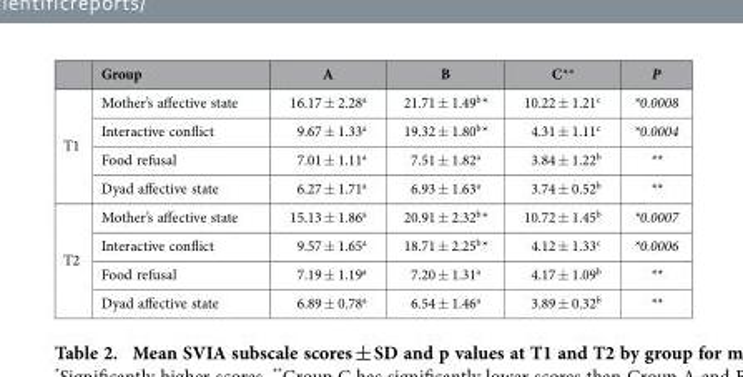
<table><thead><tr><td></td><td>Group</td><td>A</td><td>B</td><td>C**</td><td>P</td></tr></thead><tbody><tr><td rowspan="4">T1</td><td>Mother’s affective state</td><td>16.17 ± 2.28<sup>a</sup></td><td>21.71 ± 1.49<sup>b</sup>*</td><td>10.22 ± 1.21<sup>c</sup></td><td>*0.0008</td></tr><tr><td>Interactive conflict</td><td>9.67 ± 1.33<sup>a</sup></td><td>19.32 ± 1.80<sup>b</sup>*</td><td>4.31 ± 1.11<sup>c</sup></td><td>*0.0004</td></tr><tr><td>Food refusal</td><td>7.01 ± 1.11<sup>a</sup></td><td>7.51 ± 1.82<sup>a</sup></td><td>3.84 ± 1.22<sup>b</sup></td><td>**</td></tr><tr><td>Dyad affective state</td><td>6.27 ± 1.71<sup>a</sup></td><td>6.93 ± 1.63<sup>a</sup></td><td>3.74 ± 0.52<sup>b</sup></td><td>**</td></tr><tr><td rowspan="4">T2</td><td>Mother’s affective state</td><td>15.13 ± 1.86<sup>a</sup></td><td>20.91 ± 2.32<sup>b</sup>*</td><td>10.72 ± 1.45<sup>b</sup></td><td>*0.0007</td></tr><tr><td>Interactive conflict</td><td>9.57 ± 1.65<sup>a</sup></td><td>18.71 ± 2.25<sup>b</sup>*</td><td>4.12 ± 1.33<sup>c</sup></td><td>*0.0006</td></tr><tr><td>Food refusal</td><td>7.19 ± 1.19<sup>a</sup></td><td>7.20 ± 1.31<sup>a</sup></td><td>4.17 ± 1.09<sup>b</sup></td><td>**</td></tr><tr><td>Dyad affective state</td><td>6.89 ± 0.78<sup>a</sup></td><td>6.54 ± 1.46<sup>a</sup></td><td>3.89 ± 0.32<sup>b</sup></td><td>**</td></tr></tbody></table>